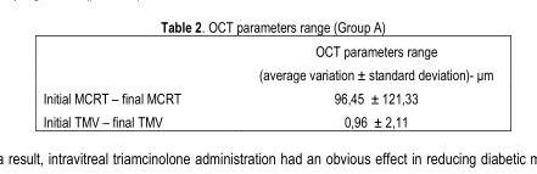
<table><thead><tr><td></td><td>OCT parameters range</td></tr></thead><tbody><tr><td></td><td>(average variation ± standard deviation)- μm</td></tr><tr><td>Initial MCRT – final MCRT</td><td>96,45 ± 121,33</td></tr><tr><td>Initial TMV – final TMV</td><td>0,96 ± 2,11</td></tr></tbody></table>